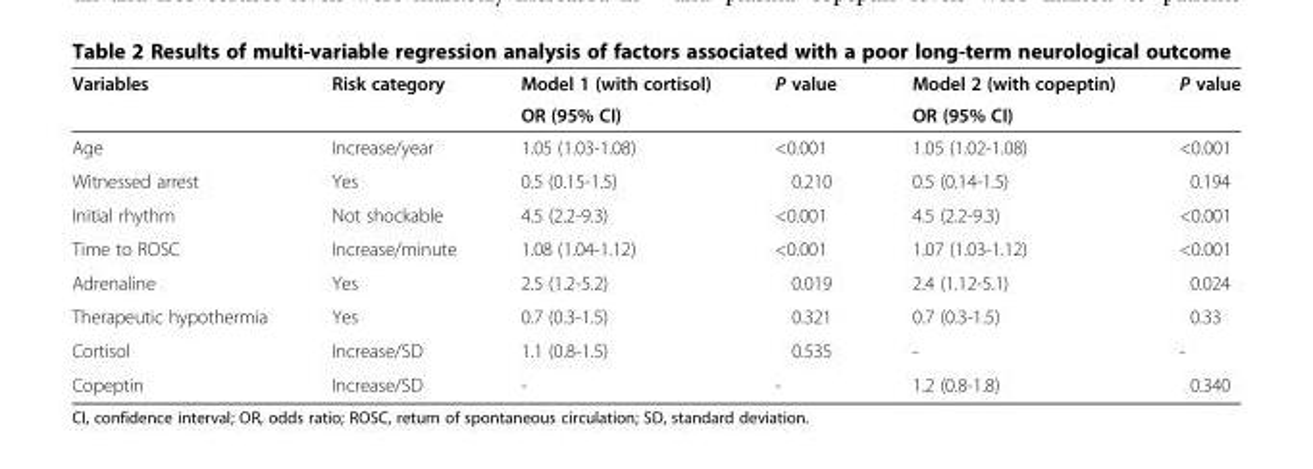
<table><thead><tr><td rowspan="2">Variables</td><td rowspan="2">Risk category</td><td rowspan="2">Model 1 (with cortisol) OR (95% CI)</td><td rowspan="2">P value</td><td rowspan="2">Model 2 (with copeptin) OR (95% CI)</td><td rowspan="2">P value</td></tr><tr></tr></thead><tbody><tr><td>Age</td><td>Increase/year</td><td>1.05 (1.03-1.08)</td><td>&lt;0.001</td><td>1.05 (1.02-1.08)</td><td>&lt;0.001</td></tr><tr><td>Witnessed arrest</td><td>Yes</td><td>0.5 (0.15-1.5)</td><td>0.210</td><td>0.5 (0.14-1.5)</td><td>0.194</td></tr><tr><td>Initial rhythm</td><td>Not shockable</td><td>4.5 (2.2-9.3)</td><td>&lt;0.001</td><td>4.5 (2.2-9.3)</td><td>&lt;0.001</td></tr><tr><td>Time to ROSC</td><td>Increase/minute</td><td>1.08 (1.04-1.12)</td><td>&lt;0.001</td><td>1.07 (1.03-1.12)</td><td>&lt;0.001</td></tr><tr><td>Adrenaline</td><td>Yes</td><td>2.5 (1.2-5.2)</td><td>0.019</td><td>2.4 (1.12-5.1)</td><td>0.024</td></tr><tr><td>Therapeutic hypothermia</td><td>Yes</td><td>0.7 (0.3-1.5)</td><td>0.321</td><td>0.7 (0.3-1.5)</td><td>0.33</td></tr><tr><td>Cortisol</td><td>Increase/SD</td><td>1.1 (0.8-1.5)</td><td>0.535</td><td>-</td><td>-</td></tr><tr><td>Copeptin</td><td>Increase/SD</td><td>-</td><td>-</td><td>1.2 (0.8-1.8)</td><td>0.340</td></tr></tbody></table>